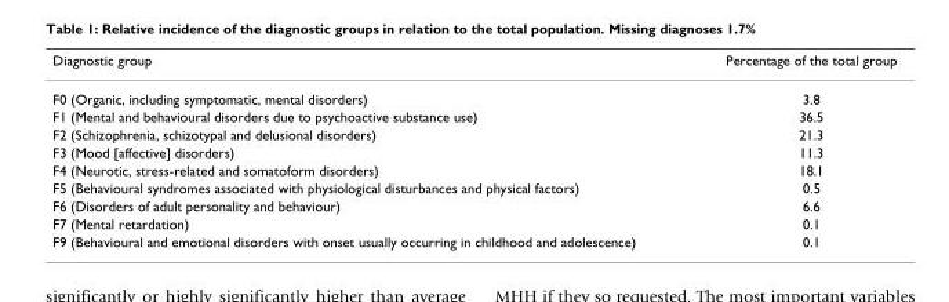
<table><thead><tr><td>Diagnostic group</td><td>Percentage of the total group</td></tr></thead><tbody><tr><td>F0 (Organic, including symptomatic, mental disorders)</td><td>3.8</td></tr><tr><td>F1 (Mental and behavioural disorders due to psychoactive substance use)</td><td>36.5</td></tr><tr><td>F2 (Schizophrenia, schizotypal and delusional disorders)</td><td>21.3</td></tr><tr><td>F3 (Mood [affective] disorders)</td><td>11.3</td></tr><tr><td>F4 (Neurotic, stress-related and somatoform disorders)</td><td>18.1</td></tr><tr><td>F5 (Behavioural syndromes associated with physiological disturbances and physical factors)</td><td>0.5</td></tr><tr><td>F6 (Disorders of adult personality and behaviour)</td><td>6.6</td></tr><tr><td>F7 (Mental retardation)</td><td>0.1</td></tr><tr><td>F9 (Behavioural and emotional disorders with onset usually occurring in childhood and adolescence)</td><td>0.1</td></tr></tbody></table>